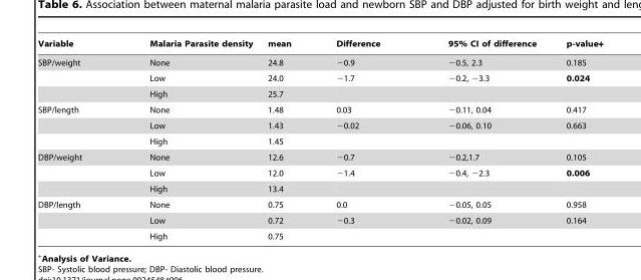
<table><thead><tr><td>Variable</td><td>Malaria Parasite density</td><td>mean</td><td>Difference</td><td>95% CI of difference</td><td>p-value+</td></tr></thead><tbody><tr><td rowspan="3">SBP/weight</td><td>None</td><td>24.8</td><td>−0.9</td><td>−0.5, 2.3</td><td>0.185</td></tr><tr><td>Low</td><td>24.0</td><td>−1.7</td><td>−0.2, −3.3</td><td>0.024</td></tr><tr><td>High</td><td>25.7</td><td></td><td></td><td></td></tr><tr><td rowspan="3">SBP/length</td><td>None</td><td>1.48</td><td>0.03</td><td>−0.11, 0.04</td><td>0.417</td></tr><tr><td>Low</td><td>1.43</td><td>−0.02</td><td>−0.06, 0.10</td><td>0.663</td></tr><tr><td>High</td><td>1.45</td><td></td><td></td><td></td></tr><tr><td rowspan="3">DBP/weight</td><td>None</td><td>12.6</td><td>−0.7</td><td>−0.2,1.7</td><td>0.105</td></tr><tr><td>Low</td><td>12.0</td><td>−1.4</td><td>−0.4, −2.3</td><td>0.006</td></tr><tr><td>High</td><td>13.4</td><td></td><td></td><td></td></tr><tr><td rowspan="3">DBP/length</td><td>None</td><td>0.75</td><td>0.0</td><td>−0.05, 0.05</td><td>0.958</td></tr><tr><td>Low</td><td>0.72</td><td>−0.3</td><td>−0.02, 0.09</td><td>0.164</td></tr><tr><td>High</td><td>0.75</td><td></td><td></td><td></td></tr></tbody></table>